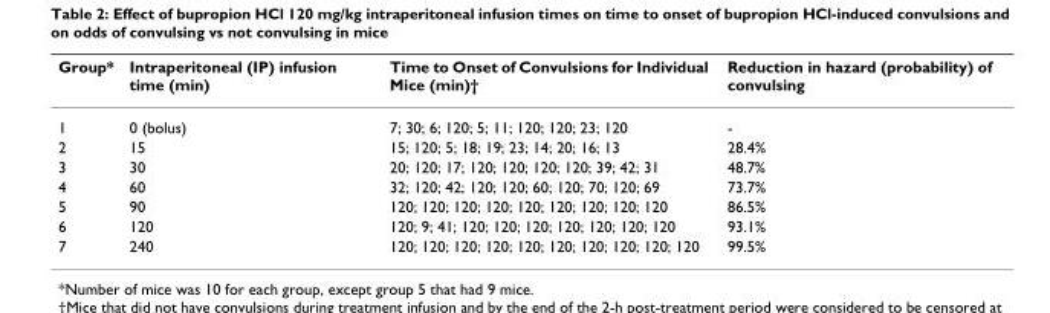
<table><thead><tr><td>Group*</td><td>Intraperitoneal (IP) infusion time (min)</td><td>Time to Onset of Convulsions for Individual Mice (min)†</td><td>Reduction in hazard (probability) of convulsing</td></tr></thead><tbody><tr><td>1</td><td>0 (bolus)</td><td>7; 30; 6; 120; 5; 11; 120; 120; 23; 120</td><td>-</td></tr><tr><td>2</td><td>15</td><td>15; 120; 5; 18; 19; 23; 14; 20; 16; 13</td><td>28.4%</td></tr><tr><td>3</td><td>30</td><td>20; 120; 17; 120; 120; 120; 120; 39; 42; 31</td><td>48.7%</td></tr><tr><td>4</td><td>60</td><td>32; 120; 42; 120; 120; 60; 120; 70; 120; 69</td><td>73.7%</td></tr><tr><td>5</td><td>90</td><td>120; 120; 120; 120; 120; 120; 120; 120; 120</td><td>86.5%</td></tr><tr><td>6</td><td>120</td><td>120; 9; 41; 120; 120; 120; 120; 120; 120; 120</td><td>93.1%</td></tr><tr><td>7</td><td>240</td><td>120; 120; 120; 120; 120; 120; 120; 120; 120; 120</td><td>99.5%</td></tr></tbody></table>